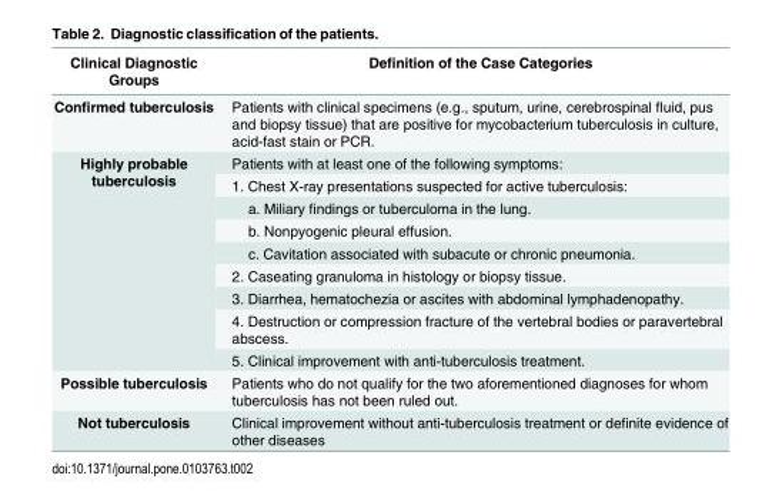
<table><thead><tr><td>Clinical Diagnostic Groups</td><td>Definition of the Case Categories</td></tr></thead><tbody><tr><td>Confirmed tuberculosis</td><td>Patients with clinical specimens (e.g., sputum, urine, cerebrospinal fluid, pus and biopsy tissue) that are positive for mycobacterium tuberculosis in culture, acid-fast stain or PCR.</td></tr><tr><td rowspan="9">Highly probable tuberculosis</td><td>Patients with at least one of the following symptoms:</td></tr><tr><td>1. Chest X-ray presentations suspected for active tuberculosis:</td></tr><tr><td>a. Miliary findings or tuberculoma in the lung.</td></tr><tr><td>b. Nonpyogenic pleural effusion.</td></tr><tr><td>c. Cavitation associated with subacute or chronic pneumonia.</td></tr><tr><td>2. Caseating granuloma in histology or biopsy tissue.</td></tr><tr><td>3. Diarrhea, hematochezia or ascites with abdominal lymphadenopathy.</td></tr><tr><td>4. Destruction or compression fracture of the vertebral bodies or paravertebral abscess.</td></tr><tr><td>5. Clinical improvement with anti-tuberculosis treatment.</td></tr><tr><td>Possible tuberculosis</td><td>Patients who do not qualify for the two aforementioned diagnoses for whom tuberculosis has not been ruled out.</td></tr><tr><td>Not tuberculosis</td><td>Clinical improvement without anti-tuberculosis treatment or definite evidence of other diseases</td></tr></tbody></table>